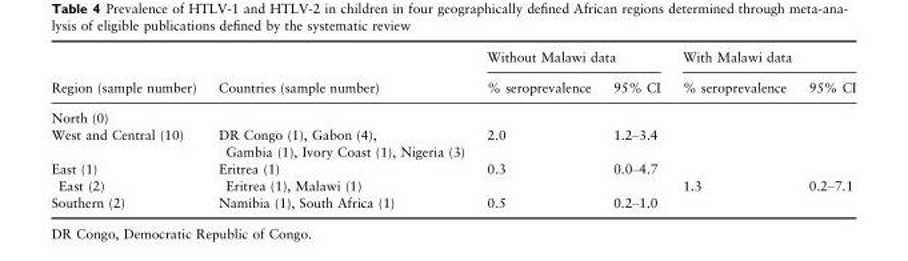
<table><thead><tr><td rowspan="2">Region (sample number)</td><td rowspan="2">Countries (sample number)</td><td colspan="2">Without Malawi data</td><td colspan="2">With Malawi data</td></tr><tr><td>% seroprevalence</td><td>95% CI</td><td>% seroprevalence</td><td>95% CI</td></tr></thead><tbody><tr><td colspan="6">North (0)</td></tr><tr><td>West and Central (10)</td><td>DR Congo (1), Gabon (4), Gambia (1), Ivory Coast (1), Nigeria (3)</td><td>2.0</td><td>1.2–3.4</td><td></td><td></td></tr><tr><td>East (1) East (2)</td><td>Eritrea (1) Eritrea (1), Malawi (1)</td><td>0.3</td><td>0.0–4.7</td><td>1.3</td><td>0.2–7.1</td></tr><tr><td>Southern (2)</td><td>Namibia (1), South Africa (1)</td><td>0.5</td><td>0.2–1.0</td><td></td><td></td></tr></tbody></table>